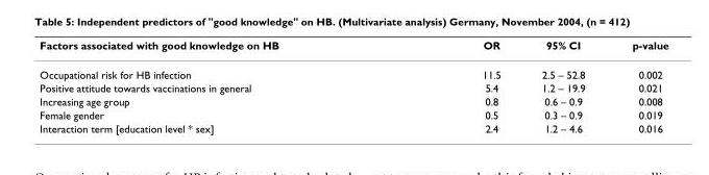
<table><thead><tr><td>Factors associated with good knowledge on HB</td><td>OR</td><td>95% CI</td><td>p-value</td></tr></thead><tbody><tr><td>Occupational risk for HB infection</td><td>11.5</td><td>2.5 – 52.8</td><td>0.002</td></tr><tr><td>Positive attitude towards vaccinations in general</td><td>5.4</td><td>1.2 – 19.9</td><td>0.021</td></tr><tr><td>Increasing age group</td><td>0.8</td><td>0.6 – 0.9</td><td>0.008</td></tr><tr><td>Female gender</td><td>0.5</td><td>0.3 – 0.9</td><td>0.019</td></tr><tr><td>Interaction term [education level * sex]</td><td>2.4</td><td>1.2 – 4.6</td><td>0.016</td></tr></tbody></table>